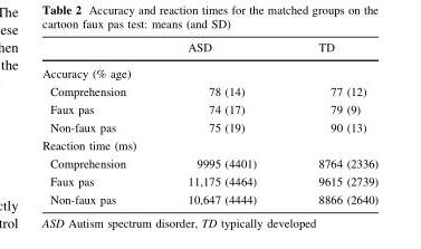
<table><thead><tr><td></td><td>ASD</td><td>TD</td></tr></thead><tbody><tr><td colspan="3">Accuracy (% age)</td></tr><tr><td>Comprehension</td><td>78 (14)</td><td>77 (12)</td></tr><tr><td>Faux pas</td><td>74 (17)</td><td>79 (9)</td></tr><tr><td>Non-faux pas</td><td>75 (19)</td><td>90 (13)</td></tr><tr><td colspan="3">Reaction time (ms)</td></tr><tr><td>Comprehension</td><td>9995 (4401)</td><td>8764 (2336)</td></tr><tr><td>Faux pas</td><td>11,175 (4464)</td><td>9615 (2739)</td></tr><tr><td>Non-faux pas</td><td>10,647 (4444)</td><td>8866 (2640)</td></tr></tbody></table>